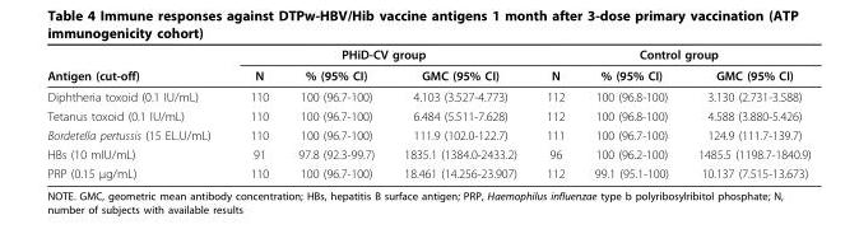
<table><thead><tr><td rowspan="2">Antigen (cut-off)</td><td colspan="3">PHiD-CV group</td><td colspan="3">Control group</td></tr><tr><td>N</td><td>% (95% CI)</td><td>GMC (95% CI)</td><td>N</td><td>% (95% CI)</td><td>GMC (95% CI)</td></tr></thead><tbody><tr><td>Diphtheria toxoid (0.1 IU/mL)</td><td>110</td><td>100 (96.7-100)</td><td>4.103 (3.527-4.773)</td><td>112</td><td>100 (96.8-100)</td><td>3.130 (2.731-3.588)</td></tr><tr><td>Tetanus toxoid (0.1 IU/mL)</td><td>110</td><td>100 (96.7-100)</td><td>6.484 (5.511-7.628)</td><td>112</td><td>100 (96.8-100)</td><td>4.588 (3.880-5.426)</td></tr><tr><td>Bordetella pertussis (15 EL.U/mL)</td><td>110</td><td>100 (96.7-100)</td><td>111.9 (102.0-122.7)</td><td>111</td><td>100 (96.7-100)</td><td>124.9 (111.7-139.7)</td></tr><tr><td>HBs (10 mIU/mL)</td><td>91</td><td>97.8 (92.3-99.7)</td><td>1835.1 (1384.0-2433.2)</td><td>96</td><td>100 (96.2-100)</td><td>1485.5 (1198.7-1840.9)</td></tr><tr><td>PRP (0.15 μg/mL)</td><td>110</td><td>100 (96.7-100)</td><td>18.461 (14.256-23.907)</td><td>112</td><td>99.1 (95.1-100)</td><td>10.137 (7.515-13.673)</td></tr></tbody></table>